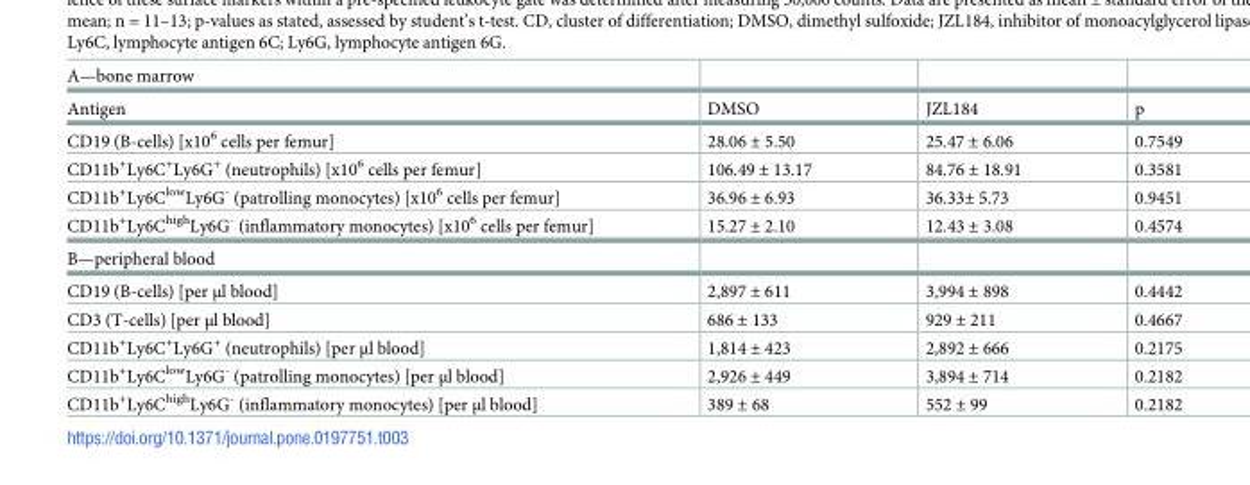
<table><tbody><tr><td colspan="4">A—bone marrow</td></tr><tr><td>Antigen</td><td>DMSO</td><td>JZL184</td><td>p</td></tr><tr><td>CD19 (B-cells) [x10<sup>6</sup> cells per femur]</td><td>28.06 ± 5.50</td><td>25.47 ± 6.06</td><td>0.7549</td></tr><tr><td>CD11b<sup>+</sup>Ly6C<sup>+</sup>Ly6G<sup>+</sup> (neutrophils) [x10<sup>6</sup> cells per femur]</td><td>106.49 ± 13.17</td><td>84.76 ± 18.91</td><td>0.3581</td></tr><tr><td>CD11b<sup>+</sup>Ly6C<sup>low</sup>Ly6G<sup>-</sup> (patrolling monocytes) [x10<sup>6</sup> cells per femur]</td><td>36.96 ± 6.93</td><td>36.33± 5.73</td><td>0.9451</td></tr><tr><td>CD11b<sup>+</sup>Ly6C<sup>high</sup>Ly6G<sup>-</sup> (inflammatory monocytes) [x10<sup>6</sup> cells per femur]</td><td>15.27 ± 2.10</td><td>12.43 ± 3.08</td><td>0.4574</td></tr><tr><td colspan="4">B—peripheral blood</td></tr><tr><td>CD19 (B-cells) [per μl blood]</td><td>2,897 ± 611</td><td>3,994 ± 898</td><td>0.4442</td></tr><tr><td>CD3 (T-cells) [per μl blood]</td><td>686 ± 133</td><td>929 ± 211</td><td>0.4667</td></tr><tr><td>CD11b<sup>+</sup>Ly6C<sup>+</sup>Ly6G<sup>+</sup> (neutrophils) [per μl blood]</td><td>1,814 ± 423</td><td>2,892 ± 666</td><td>0.2175</td></tr><tr><td>CD11b<sup>+</sup>Ly6C<sup>low</sup>Ly6G<sup>-</sup> (patrolling monocytes) [per μl blood]</td><td>2,926 ± 449</td><td>3,894 ± 714</td><td>0.2182</td></tr><tr><td>CD11b<sup>+</sup>Ly6C<sup>high</sup>Ly6G<sup>-</sup> (inflammatory monocytes) [per μl blood]</td><td>389 ± 68</td><td>552 ± 99</td><td>0.2182</td></tr></tbody></table>